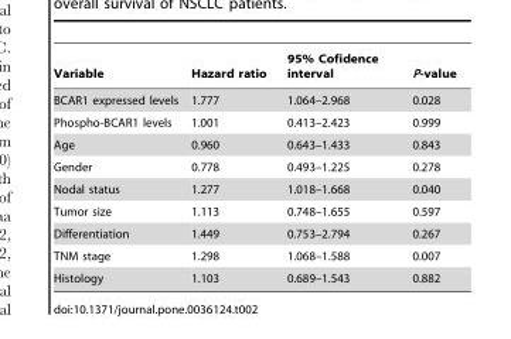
<table><thead><tr><td>Variable</td><td>Hazard ratio</td><td>95% Cofidence interval</td><td>P-value</td></tr></thead><tbody><tr><td>BCAR1 expressed levels</td><td>1.777</td><td>1.064–2.968</td><td>0.028</td></tr><tr><td>Phospho-BCAR1 levels</td><td>1.001</td><td>0.413–2.423</td><td>0.999</td></tr><tr><td>Age</td><td>0.960</td><td>0.643–1.433</td><td>0.843</td></tr><tr><td>Gender</td><td>0.778</td><td>0.493–1.225</td><td>0.278</td></tr><tr><td>Nodal status</td><td>1.277</td><td>1.018–1.668</td><td>0.040</td></tr><tr><td>Tumor size</td><td>1.113</td><td>0.748–1.655</td><td>0.597</td></tr><tr><td>Differentiation</td><td>1.449</td><td>0.753–2.794</td><td>0.267</td></tr><tr><td>TNM stage</td><td>1.298</td><td>1.068–1.588</td><td>0.007</td></tr><tr><td>Histology</td><td>1.103</td><td>0.689–1.543</td><td>0.882</td></tr></tbody></table>